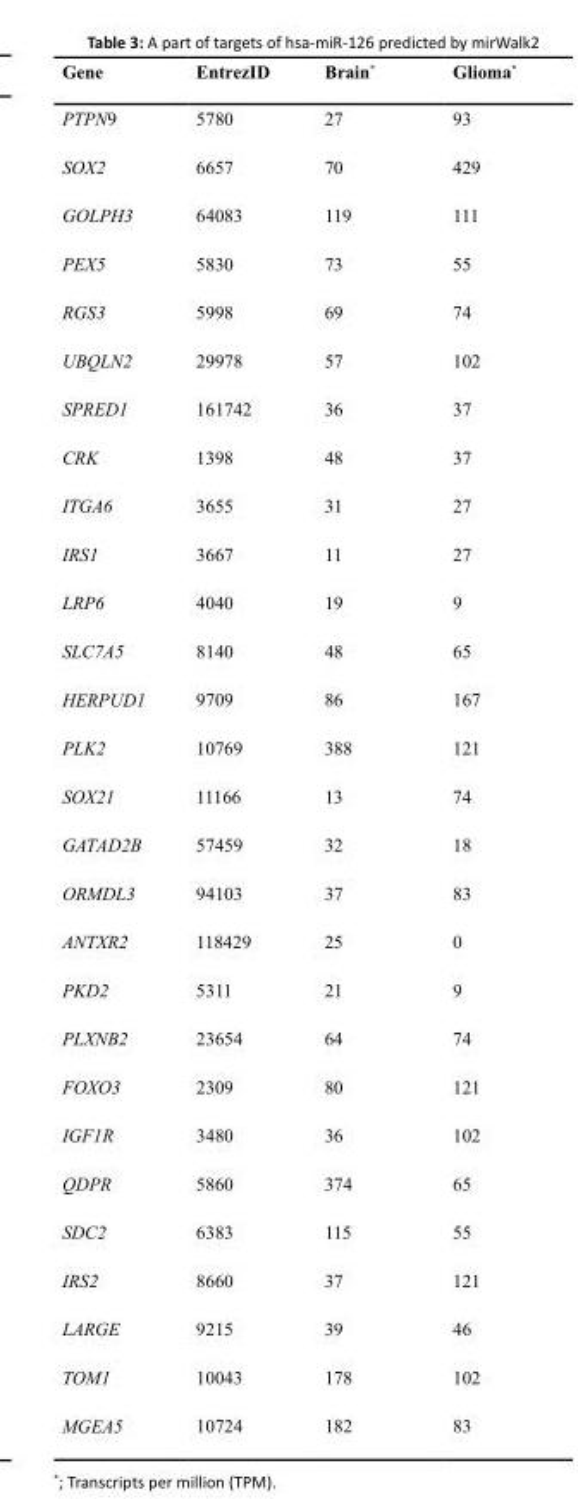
<table><thead><tr><td>Gene</td><td>EntrezID</td><td>Brain*</td><td>Glioma*</td></tr></thead><tbody><tr><td>PTPN9</td><td>5780</td><td>27</td><td>93</td></tr><tr><td>SOX2</td><td>6657</td><td>70</td><td>429</td></tr><tr><td>GOLPH3</td><td>64083</td><td>119</td><td>111</td></tr><tr><td>PEX5</td><td>5830</td><td>73</td><td>55</td></tr><tr><td>RGS3</td><td>5998</td><td>69</td><td>74</td></tr><tr><td>UBQLN2</td><td>29978</td><td>57</td><td>102</td></tr><tr><td>SPRED1</td><td>161742</td><td>36</td><td>37</td></tr><tr><td>CRK</td><td>1398</td><td>48</td><td>37</td></tr><tr><td>ITGA6</td><td>3655</td><td>31</td><td>27</td></tr><tr><td>IRS1</td><td>3667</td><td>11</td><td>27</td></tr><tr><td>LRP6</td><td>4040</td><td>19</td><td>9</td></tr><tr><td>SLC7A5</td><td>8140</td><td>48</td><td>65</td></tr><tr><td>HERPUD1</td><td>9709</td><td>86</td><td>167</td></tr><tr><td>PLK2</td><td>10769</td><td>388</td><td>121</td></tr><tr><td>SOX21</td><td>11166</td><td>13</td><td>74</td></tr><tr><td>GATAD2B</td><td>57459</td><td>32</td><td>18</td></tr><tr><td>ORMDL3</td><td>94103</td><td>37</td><td>83</td></tr><tr><td>ANTXR2</td><td>118429</td><td>25</td><td>0</td></tr><tr><td>PKD2</td><td>5311</td><td>21</td><td>9</td></tr><tr><td>PLXNB2</td><td>23654</td><td>64</td><td>74</td></tr><tr><td>FOXO3</td><td>2309</td><td>80</td><td>121</td></tr><tr><td>IGF1R</td><td>3480</td><td>36</td><td>102</td></tr><tr><td>QDPR</td><td>5860</td><td>374</td><td>65</td></tr><tr><td>SDC2</td><td>6383</td><td>115</td><td>55</td></tr><tr><td>IRS2</td><td>8660</td><td>37</td><td>121</td></tr><tr><td>LARGE</td><td>9215</td><td>39</td><td>46</td></tr><tr><td>TOM1</td><td>10043</td><td>178</td><td>102</td></tr><tr><td>MGEA5</td><td>10724</td><td>182</td><td>83</td></tr></tbody></table>